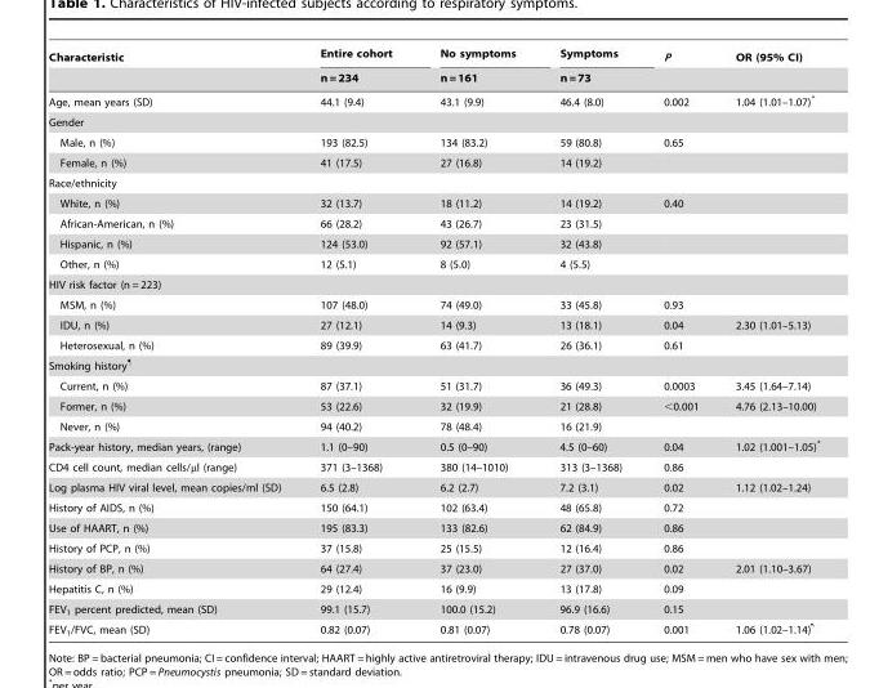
<table><thead><tr><td rowspan="2">Characteristic</td><td rowspan="2">Entire cohort n = 234</td><td rowspan="2">No symptoms n = 161</td><td rowspan="2">Symptoms n = 73</td><td rowspan="2">P</td><td rowspan="2">OR (95% CI)</td></tr><tr></tr></thead><tbody><tr><td>Age, mean years (SD)</td><td>44.1 (9.4)</td><td>43.1 (9.9)</td><td>46.4 (8.0)</td><td>0.002</td><td>1.04 (1.01–1.07)*</td></tr><tr><td colspan="6">Gender</td></tr><tr><td>Male, n (%)</td><td>193 (82.5)</td><td>134 (83.2)</td><td>59 (80.8)</td><td>0.65</td><td></td></tr><tr><td>Female, n (%)</td><td>41 (17.5)</td><td>27 (16.8)</td><td>14 (19.2)</td><td></td><td></td></tr><tr><td colspan="6">Race/ethnicity</td></tr><tr><td>White, n (%)</td><td>32 (13.7)</td><td>18 (11.2)</td><td>14 (19.2)</td><td>0.40</td><td></td></tr><tr><td>African-American, n (%)</td><td>66 (28.2)</td><td>43 (26.7)</td><td>23 (31.5)</td><td></td><td></td></tr><tr><td>Hispanic, n (%)</td><td>124 (53.0)</td><td>92 (57.1)</td><td>32 (43.8)</td><td></td><td></td></tr><tr><td>Other, n (%)</td><td>12 (5.1)</td><td>8 (5.0)</td><td>4 (5.5)</td><td></td><td></td></tr><tr><td colspan="6">HIV risk factor (n = 223)</td></tr><tr><td>MSM, n (%)</td><td>107 (48.0)</td><td>74 (49.0)</td><td>33 (45.8)</td><td>0.93</td><td></td></tr><tr><td>IDU, n (%)</td><td>27 (12.1)</td><td>14 (9.3)</td><td>13 (18.1)</td><td>0.04</td><td>2.30 (1.01–5.13)</td></tr><tr><td>Heterosexual, n (%)</td><td>89 (39.9)</td><td>63 (41.7)</td><td>26 (36.1)</td><td>0.61</td><td></td></tr><tr><td colspan="6">Smoking history¶</td></tr><tr><td>Current, n (%)</td><td>87 (37.1)</td><td>51 (31.7)</td><td>36 (49.3)</td><td>0.0003</td><td>3.45 (1.64–7.14)</td></tr><tr><td>Former, n (%)</td><td>53 (22.6)</td><td>32 (19.9)</td><td>21 (28.8)</td><td>&lt;0.001</td><td>4.76 (2.13–10.00)</td></tr><tr><td>Never, n (%)</td><td>94 (40.2)</td><td>78 (48.4)</td><td>16 (21.9)</td><td></td><td></td></tr><tr><td>Pack-year history, median years, (range)</td><td>1.1 (0–90)</td><td>0.5 (0–90)</td><td>4.5 (0–60)</td><td>0.04</td><td>1.02 (1.001–1.05)*</td></tr><tr><td>CD4 cell count, median cells/μl (range)</td><td>371 (3–1368)</td><td>380 (14–1010)</td><td>313 (3–1368)</td><td>0.86</td><td></td></tr><tr><td>Log plasma HIV viral level, mean copies/ml (SD)</td><td>6.5 (2.8)</td><td>6.2 (2.7)</td><td>7.2 (3.1)</td><td>0.02</td><td>1.12 (1.02–1.24)</td></tr><tr><td>History of AIDS, n (%)</td><td>150 (64.1)</td><td>102 (63.4)</td><td>48 (65.8)</td><td>0.72</td><td></td></tr><tr><td>Use of HAART, n (%)</td><td>195 (83.3)</td><td>133 (82.6)</td><td>62 (84.9)</td><td>0.86</td><td></td></tr><tr><td>History of PCP, n (%)</td><td>37 (15.8)</td><td>25 (15.5)</td><td>12 (16.4)</td><td>0.86</td><td></td></tr><tr><td>History of BP, n (%)</td><td>64 (27.4)</td><td>37 (23.0)</td><td>27 (37.0)</td><td>0.02</td><td>2.01 (1.10–3.67)</td></tr><tr><td>Hepatitis C, n (%)</td><td>29 (12.4)</td><td>16 (9.9)</td><td>13 (17.8)</td><td>0.09</td><td></td></tr><tr><td>FEV<sub>1</sub> percent predicted, mean (SD)</td><td>99.1 (15.7)</td><td>100.0 (15.2)</td><td>96.9 (16.6)</td><td>0.15</td><td></td></tr><tr><td>FEV<sub>1</sub>/FVC, mean (SD)</td><td>0.82 (0.07)</td><td>0.81 (0.07)</td><td>0.78 (0.07)</td><td>0.001</td><td>1.06 (1.02–1.14)ˆ</td></tr></tbody></table>